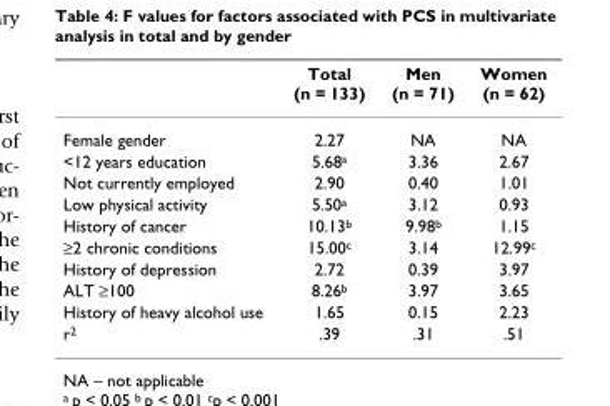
<table><thead><tr><td></td><td>Total (n = 133)</td><td>Men (n = 71)</td><td>Women (n = 62)</td></tr></thead><tbody><tr><td>Female gender</td><td>2.27</td><td>NA</td><td>NA</td></tr><tr><td>&lt;12 years education</td><td>5.68<sup>a</sup></td><td>3.36</td><td>2.67</td></tr><tr><td>Not currently employed</td><td>2.90</td><td>0.40</td><td>1.01</td></tr><tr><td>Low physical activity</td><td>5.50<sup>a</sup></td><td>3.12</td><td>0.93</td></tr><tr><td>History of cancer</td><td>10.13<sup>b</sup></td><td>9.98<sup>b</sup></td><td>1.15</td></tr><tr><td>≥2 chronic conditions</td><td>15.00<sup>c</sup></td><td>3.14</td><td>12.99<sup>c</sup></td></tr><tr><td>History of depression</td><td>2.72</td><td>0.39</td><td>3.97</td></tr><tr><td>ALT ≥100</td><td>8.26<sup>b</sup></td><td>3.97</td><td>3.65</td></tr><tr><td>History of heavy alcohol use</td><td>1.65</td><td>0.15</td><td>2.23</td></tr><tr><td>r<sup>2</sup></td><td>.39</td><td>.31</td><td>.51</td></tr></tbody></table>